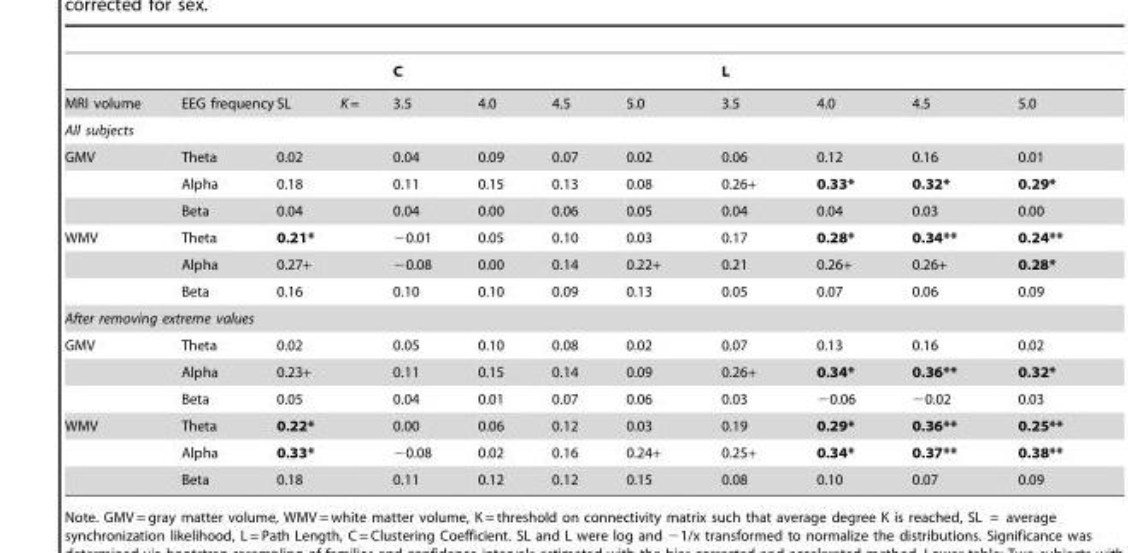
<table><thead><tr><td rowspan="2">MRI volume</td><td rowspan="2">EEG frequency</td><td rowspan="2">SL</td><td rowspan="2">K =</td><td colspan="4">C</td><td colspan="4">L</td></tr><tr><td>3.5</td><td>4.0</td><td>4.5</td><td>5.0</td><td>3.5</td><td>4.0</td><td>4.5</td><td>5.0</td></tr></thead><tbody><tr><td colspan="12">All subjects</td></tr><tr><td rowspan="3">GMV</td><td>Theta</td><td>0.02</td><td></td><td>0.04</td><td>0.09</td><td>0.07</td><td>0.02</td><td>0.06</td><td>0.12</td><td>0.16</td><td>0.01</td></tr><tr><td>Alpha</td><td>0.18</td><td></td><td>0.11</td><td>0.15</td><td>0.13</td><td>0.08</td><td>0.26+</td><td>0.33*</td><td>0.32*</td><td>0.29*</td></tr><tr><td>Beta</td><td>0.04</td><td></td><td>0.04</td><td>0.00</td><td>0.06</td><td>0.05</td><td>0.04</td><td>0.04</td><td>0.03</td><td>0.00</td></tr><tr><td rowspan="3">WMV</td><td>Theta</td><td>0.21*</td><td></td><td>−0.01</td><td>0.05</td><td>0.10</td><td>0.03</td><td>0.17</td><td>0.28*</td><td>0.34**</td><td>0.24**</td></tr><tr><td>Alpha</td><td>0.27+</td><td></td><td>−0.08</td><td>0.00</td><td>0.14</td><td>0.22+</td><td>0.21</td><td>0.26+</td><td>0.26+</td><td>0.28*</td></tr><tr><td>Beta</td><td>0.16</td><td></td><td>0.10</td><td>0.10</td><td>0.09</td><td>0.13</td><td>0.05</td><td>0.07</td><td>0.06</td><td>0.09</td></tr><tr><td colspan="12">After removing extreme values</td></tr><tr><td rowspan="3">GMV</td><td>Theta</td><td>0.02</td><td></td><td>0.05</td><td>0.10</td><td>0.08</td><td>0.02</td><td>0.07</td><td>0.13</td><td>0.16</td><td>0.02</td></tr><tr><td>Alpha</td><td>0.23+</td><td></td><td>0.11</td><td>0.15</td><td>0.14</td><td>0.09</td><td>0.26+</td><td>0.34*</td><td>0.36**</td><td>0.32*</td></tr><tr><td>Beta</td><td>0.05</td><td></td><td>0.04</td><td>0.01</td><td>0.07</td><td>0.06</td><td>0.03</td><td>−0.06</td><td>−0.02</td><td>0.03</td></tr><tr><td rowspan="3">WMV</td><td>Theta</td><td>0.22*</td><td></td><td>0.00</td><td>0.06</td><td>0.12</td><td>0.03</td><td>0.19</td><td>0.29*</td><td>0.36**</td><td>0.25**</td></tr><tr><td>Alpha</td><td>0.33*</td><td></td><td>−0.08</td><td>0.02</td><td>0.16</td><td>0.24+</td><td>0.25+</td><td>0.34*</td><td>0.37**</td><td>0.38**</td></tr><tr><td>Beta</td><td>0.18</td><td></td><td>0.11</td><td>0.12</td><td>0.12</td><td>0.15</td><td>0.08</td><td>0.10</td><td>0.07</td><td>0.09</td></tr></tbody></table>